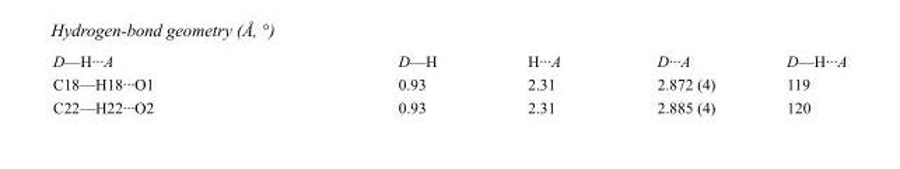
<table><tbody><tr><td>D—H···A</td><td>D—H</td><td>H···A</td><td>D···A</td><td>D—H···A</td></tr><tr><td>C18—H18···O1</td><td>0.93</td><td>2.31</td><td>2.872 (4)</td><td>119</td></tr><tr><td>C22—H22···O2</td><td>0.93</td><td>2.31</td><td>2.885 (4)</td><td>120</td></tr></tbody></table>